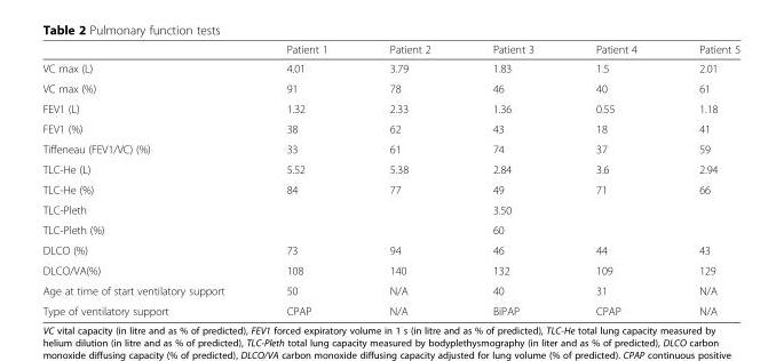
<table><thead><tr><td></td><td>Patient 1</td><td>Patient 2</td><td>Patient 3</td><td>Patient 4</td><td>Patient 5</td></tr></thead><tbody><tr><td>VC max (L)</td><td>4.01</td><td>3.79</td><td>1.83</td><td>1.5</td><td>2.01</td></tr><tr><td>VC max (%)</td><td>91</td><td>78</td><td>46</td><td>40</td><td>61</td></tr><tr><td>FEV1 (L)</td><td>1.32</td><td>2.33</td><td>1.36</td><td>0.55</td><td>1.18</td></tr><tr><td>FEV1 (%)</td><td>38</td><td>62</td><td>43</td><td>18</td><td>41</td></tr><tr><td>Tiffeneau (FEV1/VC) (%)</td><td>33</td><td>61</td><td>74</td><td>37</td><td>59</td></tr><tr><td>TLC-He (L)</td><td>5.52</td><td>5.38</td><td>2.84</td><td>3.6</td><td>2.94</td></tr><tr><td>TLC-He (%)</td><td>84</td><td>77</td><td>49</td><td>71</td><td>66</td></tr><tr><td>TLC-Pleth</td><td></td><td></td><td>3.50</td><td></td><td></td></tr><tr><td>TLC-Pleth (%)</td><td></td><td></td><td>60</td><td></td><td></td></tr><tr><td>DLCO (%)</td><td>73</td><td>94</td><td>46</td><td>44</td><td>43</td></tr><tr><td>DLCO/VA(%)</td><td>108</td><td>140</td><td>132</td><td>109</td><td>129</td></tr><tr><td>Age at time of start ventilatory support</td><td>50</td><td>N/A</td><td>40</td><td>31</td><td>N/A</td></tr><tr><td>Type of ventilatory support</td><td>CPAP</td><td>N/A</td><td>BiPAP</td><td>CPAP</td><td>N/A</td></tr></tbody></table>